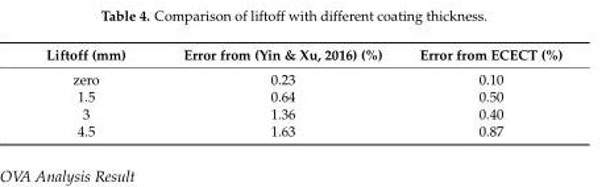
<table><thead><tr><td>Liftoff (mm)</td><td>Error from (Yin &amp; Xu, 2016) (%)</td><td>Error from ECECT (%)</td></tr></thead><tbody><tr><td>zero</td><td>0.23</td><td>0.10</td></tr><tr><td>1.5</td><td>0.64</td><td>0.50</td></tr><tr><td>3</td><td>1.36</td><td>0.40</td></tr><tr><td>4.5</td><td>1.63</td><td>0.87</td></tr></tbody></table>